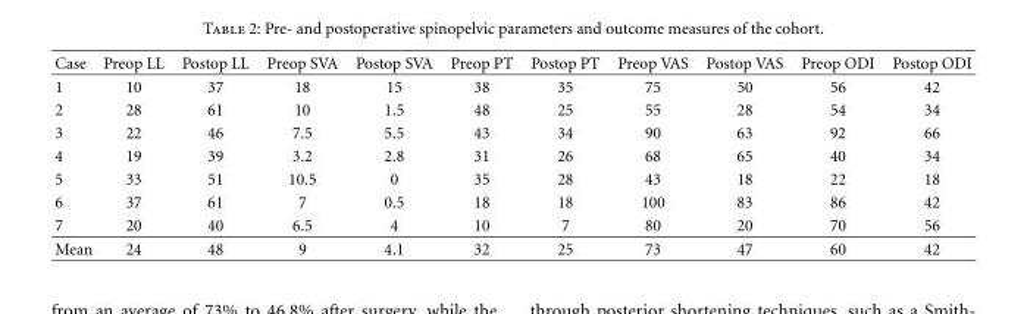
<table><thead><tr><td>Case</td><td>Preop LL</td><td>Postop LL</td><td>Preop SVA</td><td>Postop SVA</td><td>Preop PT</td><td>Postop PT</td><td>Preop VAS</td><td>Postop VAS</td><td>Preop ODI</td><td>Postop ODI</td></tr></thead><tbody><tr><td>1</td><td>10</td><td>37</td><td>18</td><td>15</td><td>38</td><td>35</td><td>75</td><td>50</td><td>56</td><td>42</td></tr><tr><td>2</td><td>28</td><td>61</td><td>10</td><td>1.5</td><td>48</td><td>25</td><td>55</td><td>28</td><td>54</td><td>34</td></tr><tr><td>3</td><td>22</td><td>46</td><td>7.5</td><td>5.5</td><td>43</td><td>34</td><td>90</td><td>63</td><td>92</td><td>66</td></tr><tr><td>4</td><td>19</td><td>39</td><td>3.2</td><td>2.8</td><td>31</td><td>26</td><td>68</td><td>65</td><td>40</td><td>34</td></tr><tr><td>5</td><td>33</td><td>51</td><td>10.5</td><td>0</td><td>35</td><td>28</td><td>43</td><td>18</td><td>22</td><td>18</td></tr><tr><td>6</td><td>37</td><td>61</td><td>7</td><td>0.5</td><td>18</td><td>18</td><td>100</td><td>83</td><td>86</td><td>42</td></tr><tr><td>7</td><td>20</td><td>40</td><td>6.5</td><td>4</td><td>10</td><td>7</td><td>80</td><td>20</td><td>70</td><td>56</td></tr><tr><td>Mean</td><td>24</td><td>48</td><td>9</td><td>4.1</td><td>32</td><td>25</td><td>73</td><td>47</td><td>60</td><td>42</td></tr></tbody></table>